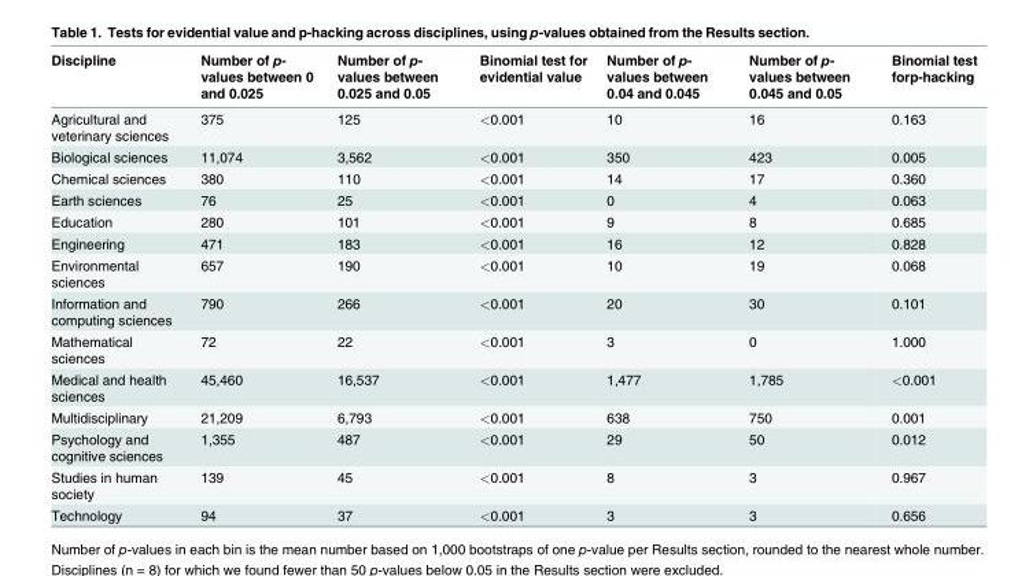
<table><thead><tr><td>Discipline</td><td>Number of p- values between 0 and 0.025</td><td>Number of p- values between 0.025 and 0.05</td><td>Binomial test for evidential value</td><td>Number of p- values between 0.04 and 0.045</td><td>Number of p- values between 0.045 and 0.05</td><td>Binomial test forp-hacking</td></tr></thead><tbody><tr><td>Agricultural and veterinary sciences</td><td>375</td><td>125</td><td>&lt;0.001</td><td>10</td><td>16</td><td>0.163</td></tr><tr><td>Biological sciences</td><td>11,074</td><td>3,562</td><td>&lt;0.001</td><td>350</td><td>423</td><td>0.005</td></tr><tr><td>Chemical sciences</td><td>380</td><td>110</td><td>&lt;0.001</td><td>14</td><td>17</td><td>0.360</td></tr><tr><td>Earth sciences</td><td>76</td><td>25</td><td>&lt;0.001</td><td>0</td><td>4</td><td>0.063</td></tr><tr><td>Education</td><td>280</td><td>101</td><td>&lt;0.001</td><td>9</td><td>8</td><td>0.685</td></tr><tr><td>Engineering</td><td>471</td><td>183</td><td>&lt;0.001</td><td>16</td><td>12</td><td>0.828</td></tr><tr><td>Environmental sciences</td><td>657</td><td>190</td><td>&lt;0.001</td><td>10</td><td>19</td><td>0.068</td></tr><tr><td>Information and computing sciences</td><td>790</td><td>266</td><td>&lt;0.001</td><td>20</td><td>30</td><td>0.101</td></tr><tr><td>Mathematical sciences</td><td>72</td><td>22</td><td>&lt;0.001</td><td>3</td><td>0</td><td>1.000</td></tr><tr><td>Medical and health sciences</td><td>45,460</td><td>16,537</td><td>&lt;0.001</td><td>1,477</td><td>1,785</td><td>&lt;0.001</td></tr><tr><td>Multidisciplinary</td><td>21,209</td><td>6,793</td><td>&lt;0.001</td><td>638</td><td>750</td><td>0.001</td></tr><tr><td>Psychology and cognitive sciences</td><td>1,355</td><td>487</td><td>&lt;0.001</td><td>29</td><td>50</td><td>0.012</td></tr><tr><td>Studies in human society</td><td>139</td><td>45</td><td>&lt;0.001</td><td>8</td><td>3</td><td>0.967</td></tr><tr><td>Technology</td><td>94</td><td>37</td><td>&lt;0.001</td><td>3</td><td>3</td><td>0.656</td></tr></tbody></table>